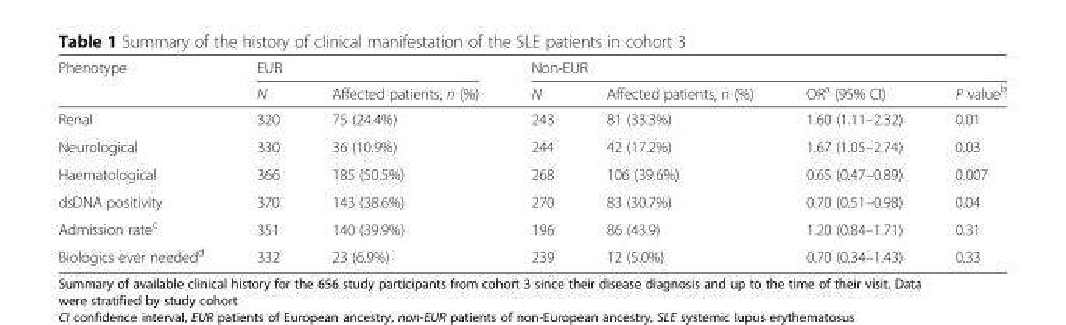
<table><thead><tr><td rowspan="2">Phenotype</td><td colspan="2">EUR</td><td colspan="4">Non-EUR</td></tr><tr><td>N</td><td>Affected patients, n (%)</td><td>N</td><td>Affected patients, n (%)</td><td>OR<sup>a</sup> (95% CI)</td><td>P value<sup>b</sup></td></tr></thead><tbody><tr><td>Renal</td><td>320</td><td>75 (24.4%)</td><td>243</td><td>81 (33.3%)</td><td>1.60 (1.11–2.32)</td><td>0.01</td></tr><tr><td>Neurological</td><td>330</td><td>36 (10.9%)</td><td>244</td><td>42 (17.2%)</td><td>1.67 (1.05–2.74)</td><td>0.03</td></tr><tr><td>Haematological</td><td>366</td><td>185 (50.5%)</td><td>268</td><td>106 (39.6%)</td><td>0.65 (0.47–0.89)</td><td>0.007</td></tr><tr><td>dsDNA positivity</td><td>370</td><td>143 (38.6%)</td><td>270</td><td>83 (30.7%)</td><td>0.70 (0.51–0.98)</td><td>0.04</td></tr><tr><td>Admission rate<sup>c</sup></td><td>351</td><td>140 (39.9%)</td><td>196</td><td>86 (43.9)</td><td>1.20 (0.84–1.71)</td><td>0.31</td></tr><tr><td>Biologics ever needed<sup>d</sup></td><td>332</td><td>23 (6.9%)</td><td>239</td><td>12 (5.0%)</td><td>0.70 (0.34–1.43)</td><td>0.33</td></tr></tbody></table>